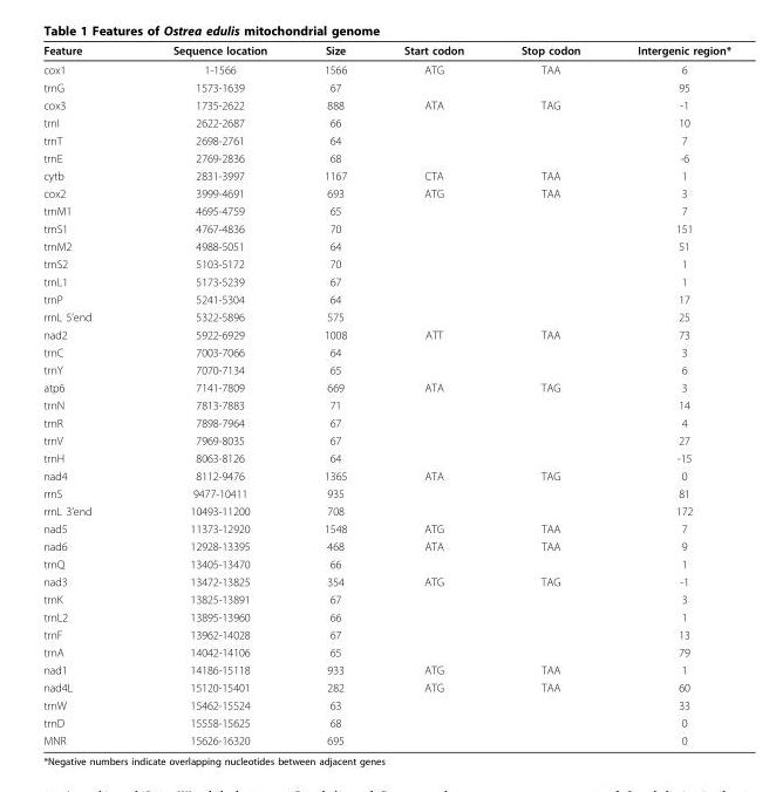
<table><thead><tr><td>Feature</td><td>Sequence location</td><td>Size</td><td>Start codon</td><td>Stop codon</td><td>Intergenic region*</td></tr></thead><tbody><tr><td>cox1</td><td>1-1566</td><td>1566</td><td>ATG</td><td>TAA</td><td>6</td></tr><tr><td>trnG</td><td>1573-1639</td><td>67</td><td></td><td></td><td>95</td></tr><tr><td>cox3</td><td>1735-2622</td><td>888</td><td>ATA</td><td>TAG</td><td>-1</td></tr><tr><td>trnI</td><td>2622-2687</td><td>66</td><td></td><td></td><td>10</td></tr><tr><td>trnT</td><td>2698-2761</td><td>64</td><td></td><td></td><td>7</td></tr><tr><td>trnE</td><td>2769-2836</td><td>68</td><td></td><td></td><td>-6</td></tr><tr><td>cytb</td><td>2831-3997</td><td>1167</td><td>CTA</td><td>TAA</td><td>1</td></tr><tr><td>cox2</td><td>3999-4691</td><td>693</td><td>ATG</td><td>TAA</td><td>3</td></tr><tr><td>trnM1</td><td>4695-4759</td><td>65</td><td></td><td></td><td>7</td></tr><tr><td>trnS1</td><td>4767-4836</td><td>70</td><td></td><td></td><td>151</td></tr><tr><td>trnM2</td><td>4988-5051</td><td>64</td><td></td><td></td><td>51</td></tr><tr><td>trnS2</td><td>5103-5172</td><td>70</td><td></td><td></td><td>1</td></tr><tr><td>trnL1</td><td>5173-5239</td><td>67</td><td></td><td></td><td>1</td></tr><tr><td>trnP</td><td>5241-5304</td><td>64</td><td></td><td></td><td>17</td></tr><tr><td>rrnL 5’end</td><td>5322-5896</td><td>575</td><td></td><td></td><td>25</td></tr><tr><td>nad2</td><td>5922-6929</td><td>1008</td><td>ATT</td><td>TAA</td><td>73</td></tr><tr><td>trnC</td><td>7003-7066</td><td>64</td><td></td><td></td><td>3</td></tr><tr><td>trnY</td><td>7070-7134</td><td>65</td><td></td><td></td><td>6</td></tr><tr><td>atp6</td><td>7141-7809</td><td>669</td><td>ATA</td><td>TAG</td><td>3</td></tr><tr><td>trnN</td><td>7813-7883</td><td>71</td><td></td><td></td><td>14</td></tr><tr><td>trnR</td><td>7898-7964</td><td>67</td><td></td><td></td><td>4</td></tr><tr><td>trnV</td><td>7969-8035</td><td>67</td><td></td><td></td><td>27</td></tr><tr><td>trnH</td><td>8063-8126</td><td>64</td><td></td><td></td><td>-15</td></tr><tr><td>nad4</td><td>8112-9476</td><td>1365</td><td>ATA</td><td>TAG</td><td>0</td></tr><tr><td>rrnS</td><td>9477-10411</td><td>935</td><td></td><td></td><td>81</td></tr><tr><td>rrnL 3’end</td><td>10493-11200</td><td>708</td><td></td><td></td><td>172</td></tr><tr><td>nad5</td><td>11373-12920</td><td>1548</td><td>ATG</td><td>TAA</td><td>7</td></tr><tr><td>nad6</td><td>12928-13395</td><td>468</td><td>ATA</td><td>TAA</td><td>9</td></tr><tr><td>trnQ</td><td>13405-13470</td><td>66</td><td></td><td></td><td>1</td></tr><tr><td>nad3</td><td>13472-13825</td><td>354</td><td>ATG</td><td>TAG</td><td>-1</td></tr><tr><td>trnK</td><td>13825-13891</td><td>67</td><td></td><td></td><td>3</td></tr><tr><td>trnL2</td><td>13895-13960</td><td>66</td><td></td><td></td><td>1</td></tr><tr><td>trnF</td><td>13962-14028</td><td>67</td><td></td><td></td><td>13</td></tr><tr><td>trnA</td><td>14042-14106</td><td>65</td><td></td><td></td><td>79</td></tr><tr><td>nad1</td><td>14186-15118</td><td>933</td><td>ATG</td><td>TAA</td><td>1</td></tr><tr><td>nad4L</td><td>15120-15401</td><td>282</td><td>ATG</td><td>TAA</td><td>60</td></tr><tr><td>trnW</td><td>15462-15524</td><td>63</td><td></td><td></td><td>33</td></tr><tr><td>trnD</td><td>15558-15625</td><td>68</td><td></td><td></td><td>0</td></tr><tr><td>MNR</td><td>15626-16320</td><td>695</td><td></td><td></td><td>0</td></tr></tbody></table>